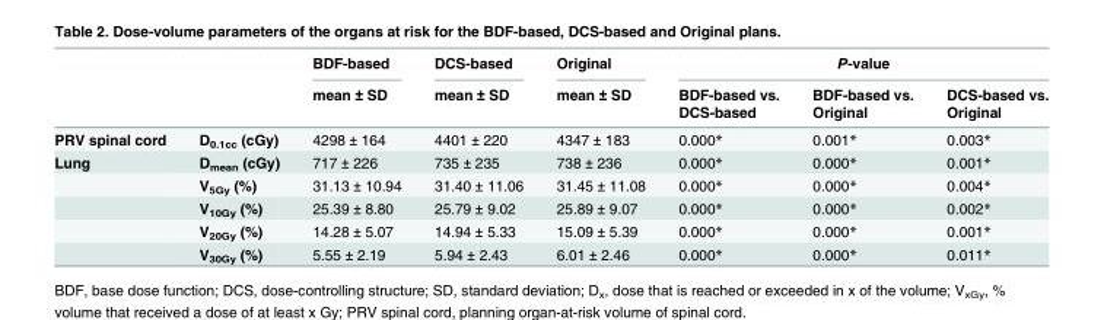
<table><thead><tr><td rowspan="3"></td><td rowspan="3"></td><td rowspan="3">BDF-based mean ± SD</td><td rowspan="3">DCS-based mean ± SD</td><td rowspan="3">Original mean ± SD</td><td colspan="3">P-value</td></tr><tr><td rowspan="2">BDF-based vs. DCS-based</td><td rowspan="2">BDF-based vs. Original</td><td rowspan="2">DCS-based vs. Original</td></tr><tr></tr></thead><tbody><tr><td>PRV spinal cord</td><td>D<sub>0.1cc</sub> (cGy)</td><td>4298 ± 164</td><td>4401 ± 220</td><td>4347 ± 183</td><td>0.000*</td><td>0.001*</td><td>0.003*</td></tr><tr><td rowspan="5">Lung</td><td>D<sub>mean</sub> (cGy)</td><td>717 ± 226</td><td>735 ± 235</td><td>738 ± 236</td><td>0.000*</td><td>0.000*</td><td>0.001*</td></tr><tr><td>V<sub>5Gy</sub> (%)</td><td>31.13 ± 10.94</td><td>31.40 ± 11.06</td><td>31.45 ± 11.08</td><td>0.000*</td><td>0.000*</td><td>0.004*</td></tr><tr><td>V<sub>10Gy</sub> (%)</td><td>25.39 ± 8.80</td><td>25.79 ± 9.02</td><td>25.89 ± 9.07</td><td>0.000*</td><td>0.000*</td><td>0.002*</td></tr><tr><td>V<sub>20Gy</sub> (%)</td><td>14.28 ± 5.07</td><td>14.94 ± 5.33</td><td>15.09 ± 5.39</td><td>0.000*</td><td>0.000*</td><td>0.001*</td></tr><tr><td>V<sub>30Gy</sub> (%)</td><td>5.55 ± 2.19</td><td>5.94 ± 2.43</td><td>6.01 ± 2.46</td><td>0.000*</td><td>0.000*</td><td>0.011*</td></tr></tbody></table>